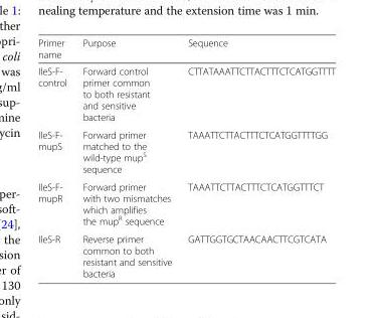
<table><thead><tr><td>Primer name</td><td>Purpose</td><td>Sequence</td></tr></thead><tbody><tr><td>IleS-F- control</td><td>Forward control primer common to both resistant and sensitive bacteria</td><td>CTTATAAATTCTTACTTTCTCATGGTTTT</td></tr><tr><td>IleS-F- mupS</td><td>Forward primer matched to the wild-type mup<sup>S</sup> sequence</td><td>TAAATTCTTACTTTCTCATGGTTTTGG</td></tr><tr><td>IleS-F- mupR</td><td>Forward primer with two mismatches which amplifies the mup<sup>R</sup> sequence</td><td>TAAATTCTTACTTTCTCATGGTTTCT</td></tr><tr><td>IleS-R</td><td>Reverse primer common to both resistant and sensitive bacteria</td><td>GATTGGTGCTAACAACTTCGTCATA</td></tr></tbody></table>